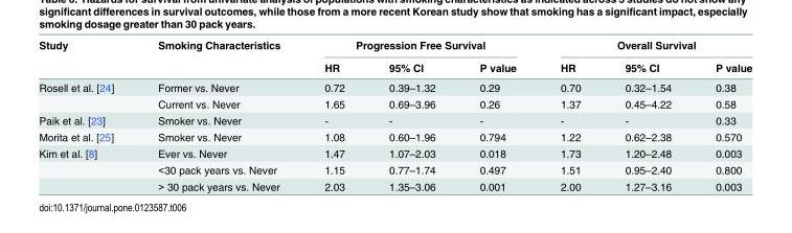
<table><thead><tr><td rowspan="2">Study</td><td rowspan="2">Smoking Characteristics</td><td colspan="3">Progression Free Survival</td><td colspan="3">Overall Survival</td></tr><tr><td>HR</td><td>95% CI</td><td>P value</td><td>HR</td><td>95% CI</td><td>P value</td></tr></thead><tbody><tr><td rowspan="2">Rosell et al. [24]</td><td>Former vs. Never</td><td>0.72</td><td>0.39–1.32</td><td>0.29</td><td>0.70</td><td>0.32–1.54</td><td>0.38</td></tr><tr><td>Current vs. Never</td><td>1.65</td><td>0.69–3.96</td><td>0.26</td><td>1.37</td><td>0.45–4.22</td><td>0.58</td></tr><tr><td>Paik et al. [23]</td><td>Smoker vs. Never</td><td>-</td><td>-</td><td>-</td><td>-</td><td>-</td><td>0.33</td></tr><tr><td>Morita et al. [25]</td><td>Smoker vs. Never</td><td>1.08</td><td>0.60–1.96</td><td>0.794</td><td>1.22</td><td>0.62–2.38</td><td>0.570</td></tr><tr><td rowspan="3">Kim et al. [8]</td><td>Ever vs. Never</td><td>1.47</td><td>1.07–2.03</td><td>0.018</td><td>1.73</td><td>1.20–2.48</td><td>0.003</td></tr><tr><td>&lt;30 pack years vs. Never</td><td>1.15</td><td>0.77–1.74</td><td>0.497</td><td>1.51</td><td>0.95–2.40</td><td>0.800</td></tr><tr><td>&gt; 30 pack years vs. Never</td><td>2.03</td><td>1.35–3.06</td><td>0.001</td><td>2.00</td><td>1.27–3.16</td><td>0.003</td></tr></tbody></table>